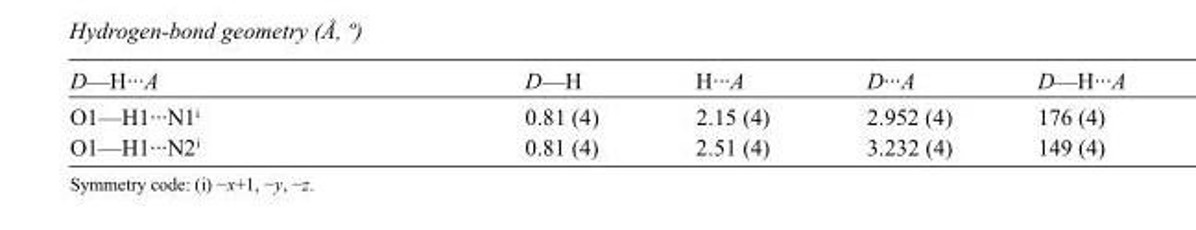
<table><tbody><tr><td>D—H···A</td><td>D—H</td><td>H···A</td><td>D···A</td><td>D—H···A</td></tr><tr><td>O1—H1···N1<sup>i</sup></td><td>0.81 (4)</td><td>2.15 (4)</td><td>2.952 (4)</td><td>176 (4)</td></tr><tr><td>O1—H1···N2<sup>i</sup></td><td>0.81 (4)</td><td>2.51 (4)</td><td>3.232 (4)</td><td>149 (4)</td></tr></tbody></table>